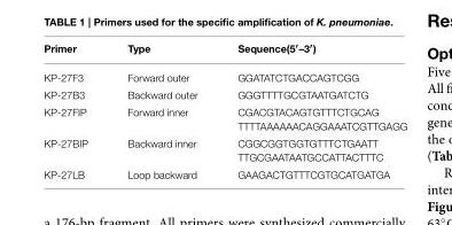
<table><thead><tr><td>Primer</td><td>Type</td><td>Sequence(5′–3′)</td></tr></thead><tbody><tr><td>KP-27F3</td><td>Forward outer</td><td>GGATATCTGACCAGTCGG</td></tr><tr><td>KP-27B3</td><td>Backward outer</td><td>GGGTTTTGCGTAATGATCTG</td></tr><tr><td>KP-27FIP</td><td>Forward inner</td><td>CGACGTACAGTGTTTCTGCAG TTTTAAAAAACAGGAAATCGTTGAGG</td></tr><tr><td>KP-27BIP</td><td>Backward inner</td><td>CGGCGGTGGTGTTTCTGAATT TTGCGAATAATGCCATTACTTTC</td></tr><tr><td>KP-27LB</td><td>Loop backward</td><td>GAAGACTGTTTCGTGCATGATGA</td></tr></tbody></table>